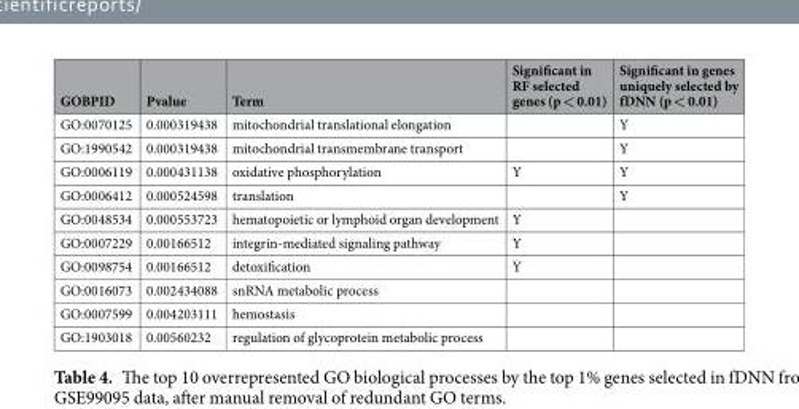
<table><thead><tr><td>GOBPID</td><td>Pvalue</td><td>Term</td><td>Significant in RF selected genes (p &lt; 0.01)</td><td>Significant in genes uniquely selected by fDNN (p &lt; 0.01)</td></tr></thead><tbody><tr><td>GO:0070125</td><td>0.000319438</td><td>mitochondrial translational elongation</td><td></td><td>Y</td></tr><tr><td>GO:1990542</td><td>0.000319438</td><td>mitochondrial transmembrane transport</td><td></td><td>Y</td></tr><tr><td>GO:0006119</td><td>0.000431138</td><td>oxidative phosphorylation</td><td>Y</td><td>Y</td></tr><tr><td>GO:0006412</td><td>0.000524598</td><td>translation</td><td></td><td>Y</td></tr><tr><td>GO:0048534</td><td>0.000553723</td><td>hematopoietic or lymphoid organ development</td><td>Y</td><td></td></tr><tr><td>GO:0007229</td><td>0.00166512</td><td>integrin-mediated signaling pathway</td><td>Y</td><td></td></tr><tr><td>GO:0098754</td><td>0.00166512</td><td>detoxification</td><td>Y</td><td></td></tr><tr><td>GO:0016073</td><td>0.002434088</td><td>snRNA metabolic process</td><td></td><td></td></tr><tr><td>GO:0007599</td><td>0.004203111</td><td>hemostasis</td><td></td><td></td></tr><tr><td>GO:1903018</td><td>0.00560232</td><td>regulation of glycoprotein metabolic process</td><td></td><td></td></tr></tbody></table>